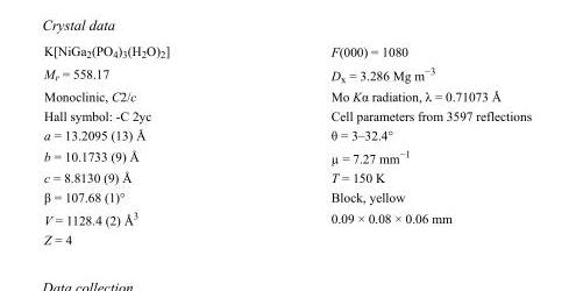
<table><tbody><tr><td>K[NiGa<sub>2</sub>(PO<sub>4</sub>)<sub>3</sub>(H<sub>2</sub>O)<sub>2</sub>]</td><td>F(000) = 1080</td></tr><tr><td>M<sub>r</sub> = 558.17</td><td>D<sub>x</sub> = 3.286 Mg m<sup>−3</sup></td></tr><tr><td>Monoclinic, C2/c</td><td>Mo Kα radiation, λ = 0.71073 Å</td></tr><tr><td>Hall symbol: -C 2yc</td><td>Cell parameters from 3597 reflections</td></tr><tr><td>a = 13.2095 (13) Å</td><td>θ = 3–32.4°</td></tr><tr><td>b = 10.1733 (9) Å</td><td>µ = 7.27 mm<sup>−1</sup></td></tr><tr><td>c = 8.8130 (9) Å</td><td>T = 150 K</td></tr><tr><td>β = 107.68 (1)°</td><td>Block, yellow</td></tr><tr><td>V = 1128.4 (2) Å<sup>3</sup></td><td>0.09 × 0.08 × 0.06 mm</td></tr><tr><td>Z = 4</td><td></td></tr></tbody></table>